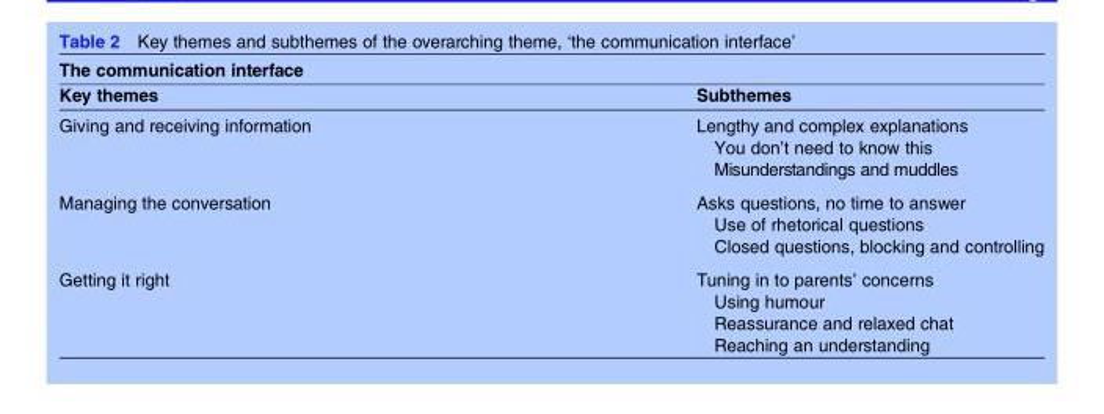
<table><thead><tr><td colspan="2">The communication interface</td></tr><tr><td>Key themes</td><td>Subthemes</td></tr></thead><tbody><tr><td>Giving and receiving information</td><td>Lengthy and complex explanations You don’t need to know this Misunderstandings and muddles</td></tr><tr><td>Managing the conversation</td><td>Asks questions, no time to answer Use of rhetorical questions Closed questions, blocking and controlling</td></tr><tr><td>Getting it right</td><td>Tuning in to parents’ concerns Using humour Reassurance and relaxed chat Reaching an understanding</td></tr></tbody></table>